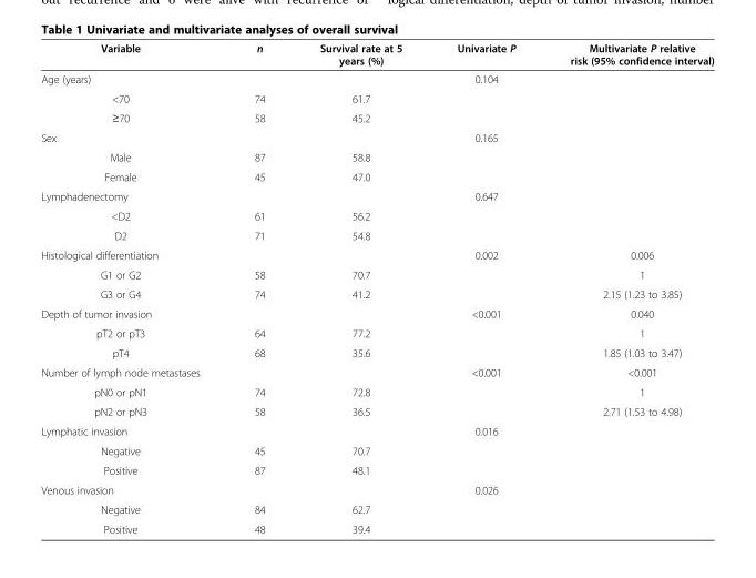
<table><thead><tr><td>Variable</td><td>n</td><td>Survival rate at 5 years (%)</td><td>Univariate P</td><td>Multivariate P relative risk (95% confidence interval)</td></tr></thead><tbody><tr><td>Age (years)</td><td></td><td></td><td>0.104</td><td></td></tr><tr><td>&lt;70</td><td>74</td><td>61.7</td><td></td><td></td></tr><tr><td>≥70</td><td>58</td><td>45.2</td><td></td><td></td></tr><tr><td>Sex</td><td></td><td></td><td>0.165</td><td></td></tr><tr><td>Male</td><td>87</td><td>58.8</td><td></td><td></td></tr><tr><td>Female</td><td>45</td><td>47.0</td><td></td><td></td></tr><tr><td>Lymphadenectomy</td><td></td><td></td><td>0.647</td><td></td></tr><tr><td>&lt;D2</td><td>61</td><td>56.2</td><td></td><td></td></tr><tr><td>D2</td><td>71</td><td>54.8</td><td></td><td></td></tr><tr><td>Histological differentiation</td><td></td><td></td><td>0.002</td><td>0.006</td></tr><tr><td>G1 or G2</td><td>58</td><td>70.7</td><td></td><td>1</td></tr><tr><td>G3 or G4</td><td>74</td><td>41.2</td><td></td><td>2.15 (1.23 to 3.85)</td></tr><tr><td>Depth of tumor invasion</td><td></td><td></td><td>&lt;0.001</td><td>0.040</td></tr><tr><td>pT2 or pT3</td><td>64</td><td>77.2</td><td></td><td>1</td></tr><tr><td>pT4</td><td>68</td><td>35.6</td><td></td><td>1.85 (1.03 to 3.47)</td></tr><tr><td>Number of lymph node metastases</td><td></td><td></td><td>&lt;0.001</td><td>&lt;0.001</td></tr><tr><td>pN0 or pN1</td><td>74</td><td>72.8</td><td></td><td>1</td></tr><tr><td>pN2 or pN3</td><td>58</td><td>36.5</td><td></td><td>2.71 (1.53 to 4.98)</td></tr><tr><td>Lymphatic invasion</td><td></td><td></td><td>0.016</td><td></td></tr><tr><td>Negative</td><td>45</td><td>70.7</td><td></td><td></td></tr><tr><td>Positive</td><td>87</td><td>48.1</td><td></td><td></td></tr><tr><td>Venous invasion</td><td></td><td></td><td>0.026</td><td></td></tr><tr><td>Negative</td><td>84</td><td>62.7</td><td></td><td></td></tr><tr><td>Positive</td><td>48</td><td>39.4</td><td></td><td></td></tr></tbody></table>